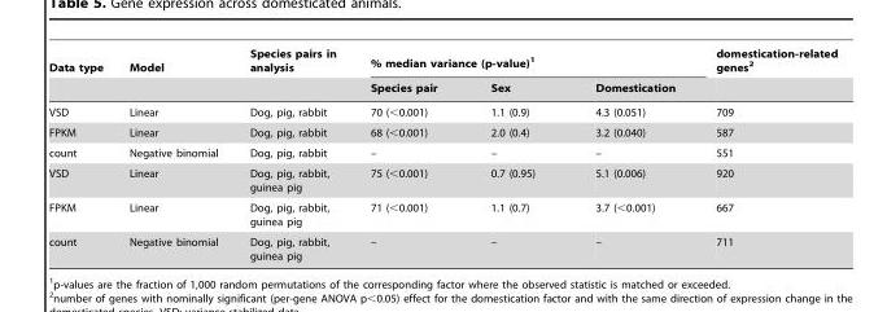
<table><thead><tr><td rowspan="2">Data type</td><td rowspan="2">Model</td><td rowspan="2">Species pairs in analysis</td><td colspan="3">% median variance (p-value)<sup>1</sup></td><td rowspan="2">domestication-related genes<sup>2</sup></td></tr><tr><td>Species pair</td><td>Sex</td><td>Domestication</td></tr></thead><tbody><tr><td>VSD</td><td>Linear</td><td>Dog, pig, rabbit</td><td>70 (&lt;0.001)</td><td>1.1 (0.9)</td><td>4.3 (0.051)</td><td>709</td></tr><tr><td>FPKM</td><td>Linear</td><td>Dog, pig, rabbit</td><td>68 (&lt;0.001)</td><td>2.0 (0.4)</td><td>3.2 (0.040)</td><td>587</td></tr><tr><td>count</td><td>Negative binomial</td><td>Dog, pig, rabbit</td><td>–</td><td>–</td><td>–</td><td>551</td></tr><tr><td>VSD</td><td>Linear</td><td>Dog, pig, rabbit, guinea pig</td><td>75 (&lt;0.001)</td><td>0.7 (0.95)</td><td>5.1 (0.006)</td><td>920</td></tr><tr><td>FPKM</td><td>Linear</td><td>Dog, pig, rabbit, guinea pig</td><td>71 (&lt;0.001)</td><td>1.1 (0.7)</td><td>3.7 (&lt;0.001)</td><td>667</td></tr><tr><td>count</td><td>Negative binomial</td><td>Dog, pig, rabbit, guinea pig</td><td>–</td><td>–</td><td>–</td><td>711</td></tr></tbody></table>